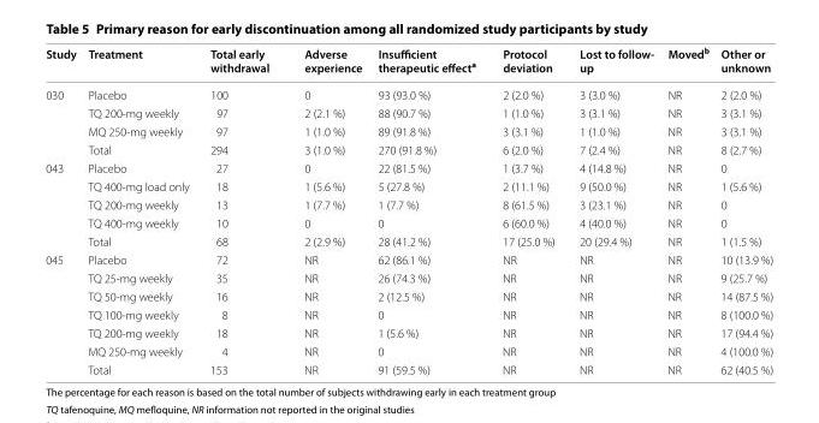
<table><thead><tr><td>Study</td><td>Treatment</td><td>Total early withdrawal</td><td>Adverse experience</td><td>Insufficient therapeutic effect<sup>a</sup></td><td>Protocol deviation</td><td>Lost to follow- up</td><td>Moved<sup>b</sup></td><td>Other or unknown</td></tr></thead><tbody><tr><td rowspan="4">030</td><td>Placebo</td><td>100</td><td>0</td><td>93 (93.0 %)</td><td>2 (2.0 %)</td><td>3 (3.0 %)</td><td>NR</td><td>2 (2.0 %)</td></tr><tr><td>TQ 200-mg weekly</td><td>97</td><td>2 (2.1 %)</td><td>88 (90.7 %)</td><td>1 (1.0 %)</td><td>3 (3.1 %)</td><td>NR</td><td>3 (3.1 %)</td></tr><tr><td>MQ 250-mg weekly</td><td>97</td><td>1 (1.0 %)</td><td>89 (91.8 %)</td><td>3 (3.1 %)</td><td>1 (1.0 %)</td><td>NR</td><td>3 (3.1 %)</td></tr><tr><td>Total</td><td>294</td><td>3 (1.0 %)</td><td>270 (91.8 %)</td><td>6 (2.0 %)</td><td>7 (2.4 %)</td><td>NR</td><td>8 (2.7 %)</td></tr><tr><td rowspan="5">043</td><td>Placebo</td><td>27</td><td>0</td><td>22 (81.5 %)</td><td>1 (3.7 %)</td><td>4 (14.8 %)</td><td>NR</td><td>0</td></tr><tr><td>TQ 400-mg load only</td><td>18</td><td>1 (5.6 %)</td><td>5 (27.8 %)</td><td>2 (11.1 %)</td><td>9 (50.0 %)</td><td>NR</td><td>1 (5.6 %)</td></tr><tr><td>TQ 200-mg weekly</td><td>13</td><td>1 (7.7 %)</td><td>1 (7.7 %)</td><td>8 (61.5 %)</td><td>3 (23.1 %)</td><td>NR</td><td>0</td></tr><tr><td>TQ 400-mg weekly</td><td>10</td><td>0</td><td>0</td><td>6 (60.0 %)</td><td>4 (40.0 %)</td><td>NR</td><td>0</td></tr><tr><td>Total</td><td>68</td><td>2 (2.9 %)</td><td>28 (41.2 %)</td><td>17 (25.0 %)</td><td>20 (29.4 %)</td><td>NR</td><td>1 (1.5 %)</td></tr><tr><td rowspan="7">045</td><td>Placebo</td><td>72</td><td>NR</td><td>62 (86.1 %)</td><td>NR</td><td>NR</td><td>NR</td><td>10 (13.9 %)</td></tr><tr><td>TQ 25-mg weekly</td><td>35</td><td>NR</td><td>26 (74.3 %)</td><td>NR</td><td>NR</td><td>NR</td><td>9 (25.7 %)</td></tr><tr><td>TQ 50-mg weekly</td><td>16</td><td>NR</td><td>2 (12.5 %)</td><td>NR</td><td>NR</td><td>NR</td><td>14 (87.5 %)</td></tr><tr><td>TQ 100-mg weekly</td><td>8</td><td>NR</td><td>0</td><td>NR</td><td>NR</td><td>NR</td><td>8 (100.0 %)</td></tr><tr><td>TQ 200-mg weekly</td><td>18</td><td>NR</td><td>1 (5.6 %)</td><td>NR</td><td>NR</td><td>NR</td><td>17 (94.4 %)</td></tr><tr><td>MQ 250-mg weekly</td><td>4</td><td>NR</td><td>0</td><td>NR</td><td>NR</td><td>NR</td><td>4 (100.0 %)</td></tr><tr><td>Total</td><td>153</td><td>NR</td><td>91 (59.5 %)</td><td>NR</td><td>NR</td><td>NR</td><td>62 (40.5 %)</td></tr></tbody></table>